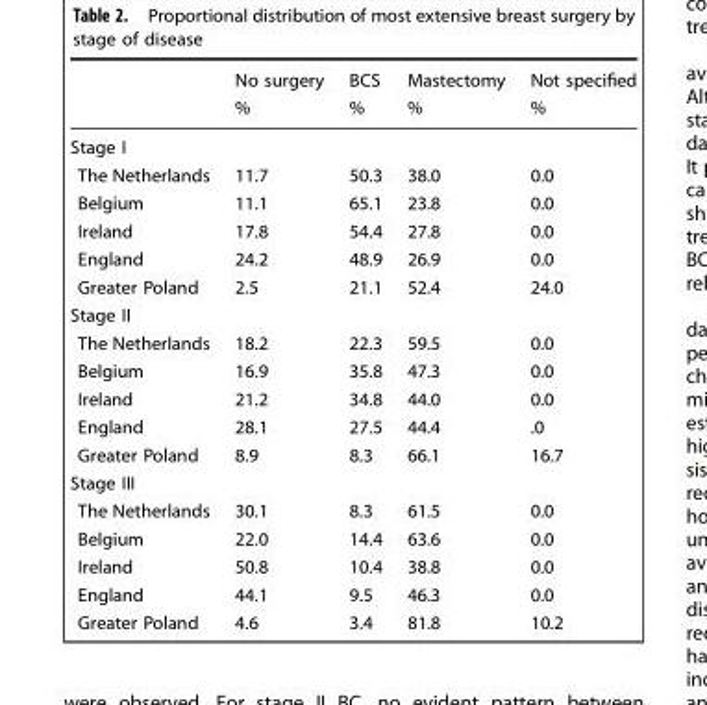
<table><thead><tr><td rowspan="2"></td><td rowspan="2">No surgery %</td><td rowspan="2">BCS %</td><td rowspan="2">Mastectomy %</td><td rowspan="2">Not specified %</td></tr><tr></tr></thead><tbody><tr><td colspan="5">Stage I</td></tr><tr><td>The Netherlands</td><td>11.7</td><td>50.3</td><td>38.0</td><td>0.0</td></tr><tr><td>Belgium</td><td>11.1</td><td>65.1</td><td>23.8</td><td>0.0</td></tr><tr><td>Ireland</td><td>17.8</td><td>54.4</td><td>27.8</td><td>0.0</td></tr><tr><td>England</td><td>24.2</td><td>48.9</td><td>26.9</td><td>0.0</td></tr><tr><td>Greater Poland</td><td>2.5</td><td>21.1</td><td>52.4</td><td>24.0</td></tr><tr><td colspan="5">Stage II</td></tr><tr><td>The Netherlands</td><td>18.2</td><td>22.3</td><td>59.5</td><td>0.0</td></tr><tr><td>Belgium</td><td>16.9</td><td>35.8</td><td>47.3</td><td>0.0</td></tr><tr><td>Ireland</td><td>21.2</td><td>34.8</td><td>44.0</td><td>0.0</td></tr><tr><td>England</td><td>28.1</td><td>27.5</td><td>44.4</td><td>.0</td></tr><tr><td>Greater Poland</td><td>8.9</td><td>8.3</td><td>66.1</td><td>16.7</td></tr><tr><td colspan="5">Stage III</td></tr><tr><td>The Netherlands</td><td>30.1</td><td>8.3</td><td>61.5</td><td>0.0</td></tr><tr><td>Belgium</td><td>22.0</td><td>14.4</td><td>63.6</td><td>0.0</td></tr><tr><td>Ireland</td><td>50.8</td><td>10.4</td><td>38.8</td><td>0.0</td></tr><tr><td>England</td><td>44.1</td><td>9.5</td><td>46.3</td><td>0.0</td></tr><tr><td>Greater Poland</td><td>4.6</td><td>3.4</td><td>81.8</td><td>10.2</td></tr></tbody></table>